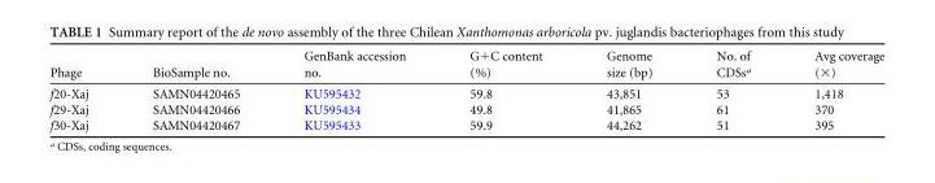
<table><thead><tr><td>Phage</td><td>BioSample no.</td><td>GenBank accession no.</td><td>G+C content (%)</td><td>Genome size (bp)</td><td>No. of CDSs<sup>a</sup></td><td>Avg coverage (×)</td></tr></thead><tbody><tr><td>f20-Xaj</td><td>SAMN04420465</td><td>KU595432</td><td>59.8</td><td>43,851</td><td>53</td><td>1,418</td></tr><tr><td>f29-Xaj</td><td>SAMN04420466</td><td>KU595434</td><td>49.8</td><td>41,865</td><td>61</td><td>370</td></tr><tr><td>f30-Xaj</td><td>SAMN04420467</td><td>KU595433</td><td>59.9</td><td>44,262</td><td>51</td><td>395</td></tr></tbody></table>